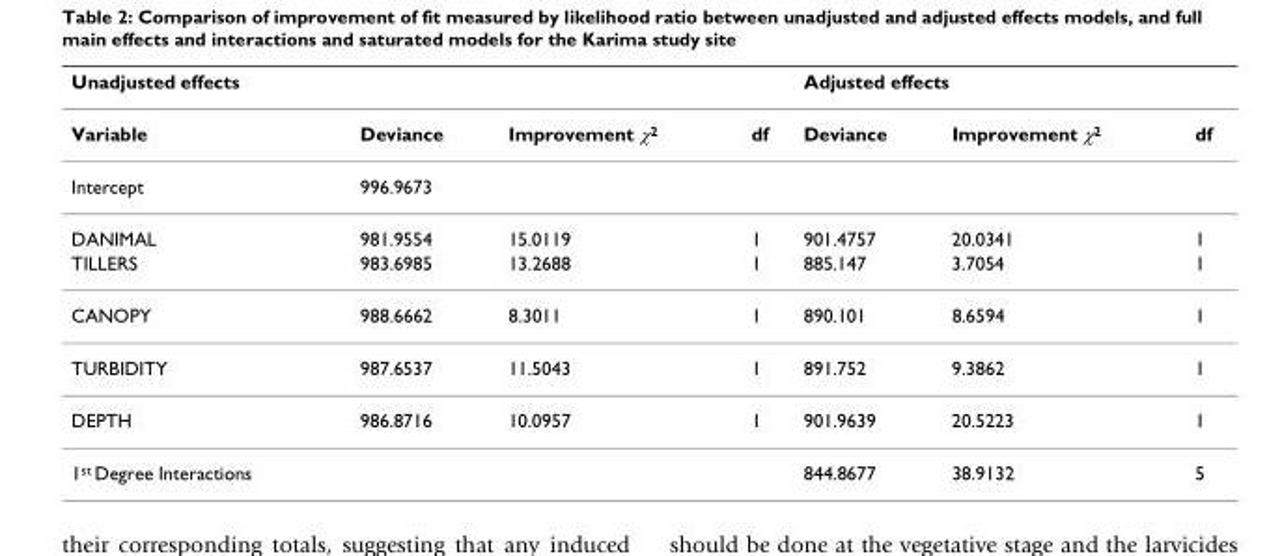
<table><thead><tr><td colspan="4">Unadjusted effects</td><td colspan="3">Adjusted effects</td></tr><tr><td>Variable</td><td>Deviance</td><td>Improvement χ<sup>2</sup></td><td>df</td><td>Deviance</td><td>Improvement χ<sup>2</sup></td><td>df</td></tr></thead><tbody><tr><td>Intercept</td><td>996.9673</td><td></td><td></td><td></td><td></td><td></td></tr><tr><td>DANIMAL</td><td>981.9554</td><td>15.0119</td><td>1</td><td>901.4757</td><td>20.0341</td><td>1</td></tr><tr><td>TILLERS</td><td>983.6985</td><td>13.2688</td><td>1</td><td>885.147</td><td>3.7054</td><td>1</td></tr><tr><td>CANOPY</td><td>988.6662</td><td>8.3011</td><td>1</td><td>890.101</td><td>8.6594</td><td>1</td></tr><tr><td>TURBIDITY</td><td>987.6537</td><td>11.5043</td><td>1</td><td>891.752</td><td>9.3862</td><td>1</td></tr><tr><td>DEPTH</td><td>986.8716</td><td>10.0957</td><td>1</td><td>901.9639</td><td>20.5223</td><td>1</td></tr><tr><td>1<sup>st</sup> Degree Interactions</td><td></td><td></td><td></td><td>844.8677</td><td>38.9132</td><td>5</td></tr></tbody></table>